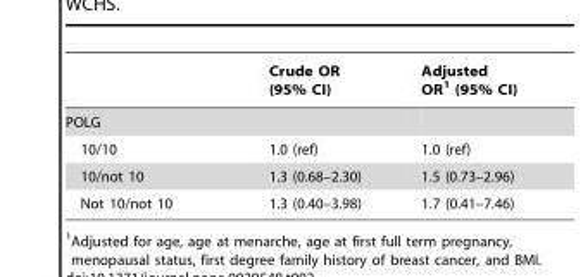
<table><thead><tr><td></td><td>Crude OR (95% CI)</td><td>Adjusted OR<sup>1</sup> (95% CI)</td></tr></thead><tbody><tr><td colspan="3">POLG</td></tr><tr><td>10/10</td><td>1.0 (ref)</td><td>1.0 (ref)</td></tr><tr><td>10/not 10</td><td>1.3 (0.68–2.30)</td><td>1.5 (0.73–2.96)</td></tr><tr><td>Not 10/not 10</td><td>1.3 (0.40–3.98)</td><td>1.7 (0.41–7.46)</td></tr></tbody></table>